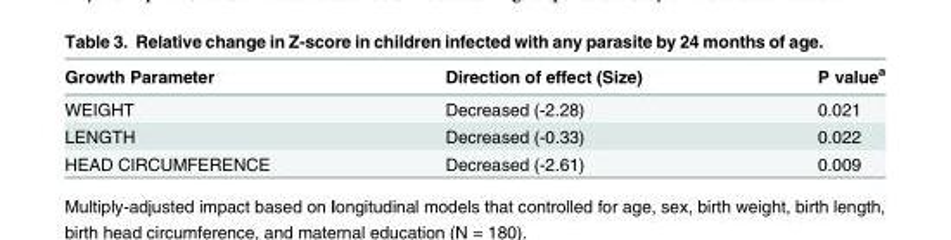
<table><thead><tr><td>Growth Parameter</td><td>Direction of effect (Size)</td><td>P value<sup>a</sup></td></tr></thead><tbody><tr><td>WEIGHT</td><td>Decreased (-2.28)</td><td>0.021</td></tr><tr><td>LENGTH</td><td>Decreased (-0.33)</td><td>0.022</td></tr><tr><td>HEAD CIRCUMFERENCE</td><td>Decreased (-2.61)</td><td>0.009</td></tr></tbody></table>